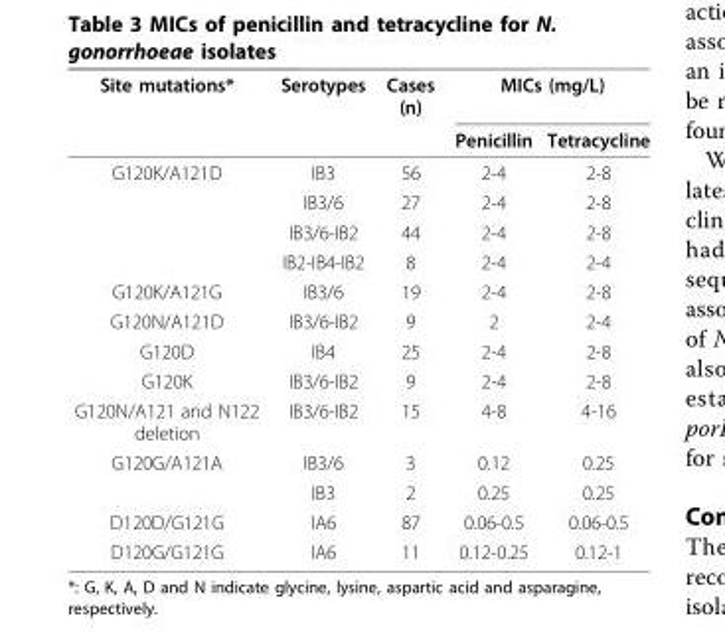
<table><thead><tr><td rowspan="2">Site mutations*</td><td rowspan="2">Serotypes</td><td rowspan="2">Cases (n)</td><td colspan="2">MICs (mg/L)</td></tr><tr><td>Penicillin</td><td>Tetracycline</td></tr></thead><tbody><tr><td rowspan="4">G120K/A121D</td><td>IB3</td><td>56</td><td>2-4</td><td>2-8</td></tr><tr><td>IB3/6</td><td>27</td><td>2-4</td><td>2-8</td></tr><tr><td>IB3/6-IB2</td><td>44</td><td>2-4</td><td>2-8</td></tr><tr><td>IB2-IB4-IB2</td><td>8</td><td>2-4</td><td>2-4</td></tr><tr><td>G120K/A121G</td><td>IB3/6</td><td>19</td><td>2-4</td><td>2-8</td></tr><tr><td>G120N/A121D</td><td>IB3/6-IB2</td><td>9</td><td>2</td><td>2-4</td></tr><tr><td>G120D</td><td>IB4</td><td>25</td><td>2-4</td><td>2-8</td></tr><tr><td>G120K</td><td>IB3/6-IB2</td><td>9</td><td>2-4</td><td>2-8</td></tr><tr><td>G120N/A121 and N122 deletion</td><td>IB3/6-IB2</td><td>15</td><td>4-8</td><td>4-16</td></tr><tr><td rowspan="2">G120G/A121A</td><td>IB3/6</td><td>3</td><td>0.12</td><td>0.25</td></tr><tr><td>IB3</td><td>2</td><td>0.25</td><td>0.25</td></tr><tr><td>D120D/G121G</td><td>IA6</td><td>87</td><td>0.06-0.5</td><td>0.06-0.5</td></tr><tr><td>D120G/G121G</td><td>IA6</td><td>11</td><td>0.12-0.25</td><td>0.12-1</td></tr></tbody></table>